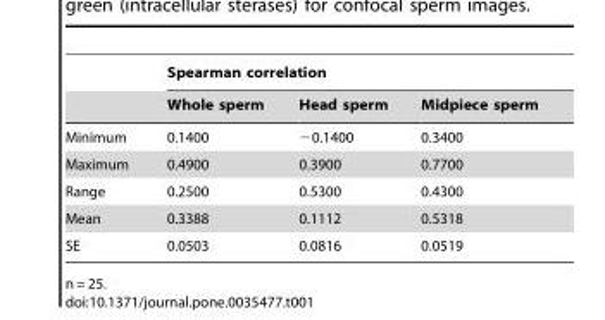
<table><thead><tr><td rowspan="2"></td><td colspan="3">Spearman correlation</td></tr><tr><td>Whole sperm</td><td>Head sperm</td><td>Midpiece sperm</td></tr></thead><tbody><tr><td>Minimum</td><td>0.1400</td><td>−0.1400</td><td>0.3400</td></tr><tr><td>Maximum</td><td>0.4900</td><td>0.3900</td><td>0.7700</td></tr><tr><td>Range</td><td>0.2500</td><td>0.5300</td><td>0.4300</td></tr><tr><td>Mean</td><td>0.3388</td><td>0.1112</td><td>0.5318</td></tr><tr><td>SE</td><td>0.0503</td><td>0.0816</td><td>0.0519</td></tr></tbody></table>